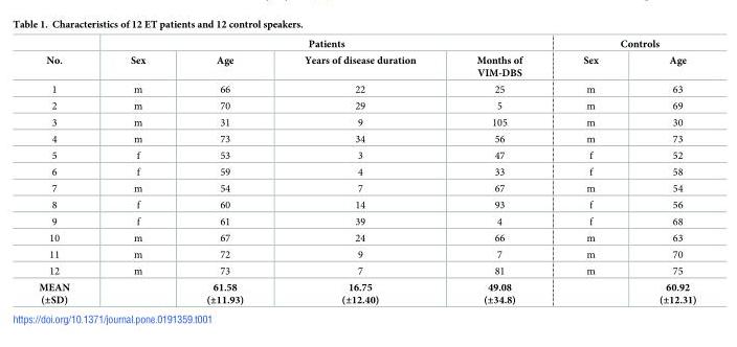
<table><thead><tr><td rowspan="2">No.</td><td colspan="4">Patients</td><td colspan="2">Controls</td></tr><tr><td>Sex</td><td>Age</td><td>Years of disease duration</td><td>Months of VIM-DBS</td><td>Sex</td><td>Age</td></tr></thead><tbody><tr><td>1</td><td>m</td><td>66</td><td>22</td><td>25</td><td>m</td><td>63</td></tr><tr><td>2</td><td>m</td><td>70</td><td>29</td><td>5</td><td>m</td><td>69</td></tr><tr><td>3</td><td>m</td><td>31</td><td>9</td><td>105</td><td>m</td><td>30</td></tr><tr><td>4</td><td>m</td><td>73</td><td>34</td><td>56</td><td>m</td><td>73</td></tr><tr><td>5</td><td>f</td><td>53</td><td>3</td><td>47</td><td>f</td><td>52</td></tr><tr><td>6</td><td>f</td><td>59</td><td>4</td><td>33</td><td>f</td><td>58</td></tr><tr><td>7</td><td>m</td><td>54</td><td>7</td><td>67</td><td>m</td><td>54</td></tr><tr><td>8</td><td>f</td><td>60</td><td>14</td><td>93</td><td>f</td><td>56</td></tr><tr><td>9</td><td>f</td><td>61</td><td>39</td><td>4</td><td>f</td><td>68</td></tr><tr><td>10</td><td>m</td><td>67</td><td>24</td><td>66</td><td>m</td><td>63</td></tr><tr><td>11</td><td>m</td><td>72</td><td>9</td><td>7</td><td>m</td><td>70</td></tr><tr><td>12</td><td>m</td><td>73</td><td>7</td><td>81</td><td>m</td><td>75</td></tr><tr><td>MEAN (±SD)</td><td></td><td>61.58 (±11.93)</td><td>16.75 (±12.40)</td><td>49.08 (±34.8)</td><td></td><td>60.92 (±12.31)</td></tr></tbody></table>